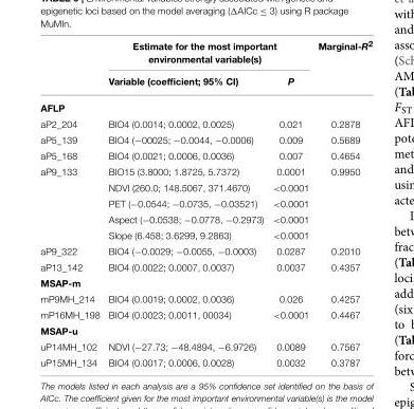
<table><thead><tr><td rowspan="2"></td><td colspan="2">Estimate for the most important environmental variable(s)</td><td rowspan="2">Marginal-R<sup>2</sup></td></tr><tr><td>Variable (coefficient; 95% CI)</td><td>P</td></tr></thead><tbody><tr><td colspan="4">AFLP</td></tr><tr><td>aP2_204</td><td>BIO4 (0.0014; 0.0002, 0.0025)</td><td>0.021</td><td>0.2878</td></tr><tr><td>aP5_139</td><td>BIO4 (−00025; −0.0044, −0.0006)</td><td>0.009</td><td>0.5689</td></tr><tr><td>aP5_168</td><td>BIO4 (0.0021; 0.0006, 0.0036)</td><td>0.007</td><td>0.4654</td></tr><tr><td rowspan="5">aP9_133</td><td>BIO15 (3.8000; 1.8725, 5.7372)</td><td>0.0001</td><td>0.9950</td></tr><tr><td>NDVI (260.0; 148.5067, 371.4670)</td><td>&lt;0.0001</td><td></td></tr><tr><td>PET (−0.0544; −0.0735, −0.03521)</td><td>&lt;0.0001</td><td></td></tr><tr><td>Aspect (−0.0538; −0.0778, −0.2973)</td><td>&lt;0.0001</td><td></td></tr><tr><td>Slope (6.458; 3.6299, 9.2863)</td><td>&lt;0.0001</td><td></td></tr><tr><td>aP9_322</td><td>BIO4 (−0.0029; −0.0055, −0.0003)</td><td>0.0287</td><td>0.2010</td></tr><tr><td>aP13_142</td><td>BIO4 (0.0022; 0.0007, 0.0037)</td><td>0.0037</td><td>0.4357</td></tr><tr><td colspan="4">MSAP-m</td></tr><tr><td>mP9MH_214</td><td>BIO4 (0.0019; 0.0002, 0.0036)</td><td>0.026</td><td>0.4257</td></tr><tr><td>mP16MH_198</td><td>BIO4 (0.0023; 0.0011, 00034)</td><td>&lt;0.0001</td><td>0.4467</td></tr><tr><td colspan="4">MSAP-u</td></tr><tr><td>uP14MH_102</td><td>NDVI (−27.73; −48.4894, −6.9726)</td><td>0.0089</td><td>0.7567</td></tr><tr><td>uP15MH_134</td><td>BIO4 (0.0017; 0.0006, 0.0028)</td><td>0.0032</td><td>0.3787</td></tr></tbody></table>